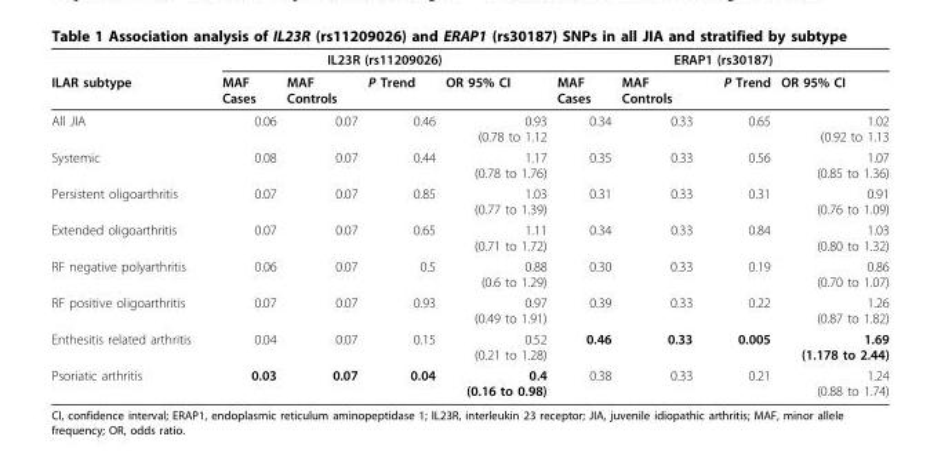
<table><thead><tr><td rowspan="2">ILAR subtype</td><td colspan="4">IL23R (rs11209026)</td><td colspan="4">ERAP1 (rs30187)</td></tr><tr><td>MAF Cases</td><td>MAF Controls</td><td>P Trend</td><td>OR 95% CI</td><td>MAF Cases</td><td>MAF Controls</td><td>P Trend</td><td>OR 95% CI</td></tr></thead><tbody><tr><td>All JIA</td><td>0.06</td><td>0.07</td><td>0.46</td><td>0.93 (0.78 to 1.12</td><td>0.34</td><td>0.33</td><td>0.65</td><td>1.02 (0.92 to 1.13</td></tr><tr><td>Systemic</td><td>0.08</td><td>0.07</td><td>0.44</td><td>1.17 (0.78 to 1.76)</td><td>0.35</td><td>0.33</td><td>0.56</td><td>1.07 (0.85 to 1.36)</td></tr><tr><td>Persistent oligoarthritis</td><td>0.07</td><td>0.07</td><td>0.85</td><td>1.03 (0.77 to 1.39)</td><td>0.31</td><td>0.33</td><td>0.31</td><td>0.91 (0.76 to 1.09)</td></tr><tr><td>Extended oligoarthritis</td><td>0.07</td><td>0.07</td><td>0.65</td><td>1.11 (0.71 to 1.72)</td><td>0.34</td><td>0.33</td><td>0.84</td><td>1.03 (0.80 to 1.32)</td></tr><tr><td>RF negative polyarthritis</td><td>0.06</td><td>0.07</td><td>0.5</td><td>0.88 (0.6 to 1.29)</td><td>0.30</td><td>0.33</td><td>0.19</td><td>0.86 (0.70 to 1.07)</td></tr><tr><td>RF positive oligoarthritis</td><td>0.07</td><td>0.07</td><td>0.93</td><td>0.97 (0.49 to 1.91)</td><td>0.39</td><td>0.33</td><td>0.22</td><td>1.26 (0.87 to 1.82)</td></tr><tr><td>Enthesitis related arthritis</td><td>0.04</td><td>0.07</td><td>0.15</td><td>0.52 (0.21 to 1.28)</td><td>0.46</td><td>0.33</td><td>0.005</td><td>1.69 (1.178 to 2.44)</td></tr><tr><td>Psoriatic arthritis</td><td>0.03</td><td>0.07</td><td>0.04</td><td>0.4 (0.16 to 0.98)</td><td>0.38</td><td>0.33</td><td>0.21</td><td>1.24 (0.88 to 1.74)</td></tr></tbody></table>